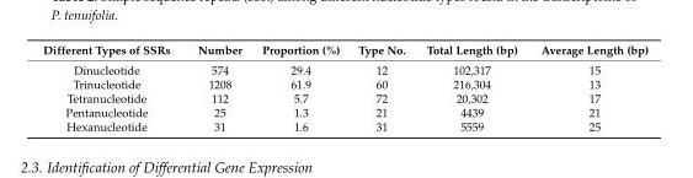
<table><thead><tr><td>Different Types of SSRs</td><td>Number</td><td>Proportion (%)</td><td>Type No.</td><td>Total Length (bp)</td><td>Average Length (bp)</td></tr></thead><tbody><tr><td>Dinucleotide</td><td>574</td><td>29.4</td><td>12</td><td>102,317</td><td>15</td></tr><tr><td>Trinucleotide</td><td>1208</td><td>61.9</td><td>60</td><td>216,304</td><td>13</td></tr><tr><td>Tetranucleotide</td><td>112</td><td>5.7</td><td>72</td><td>20,302</td><td>17</td></tr><tr><td>Pentanucleotide</td><td>25</td><td>1.3</td><td>21</td><td>4439</td><td>21</td></tr><tr><td>Hexanucleotide</td><td>31</td><td>1.6</td><td>31</td><td>5559</td><td>25</td></tr></tbody></table>